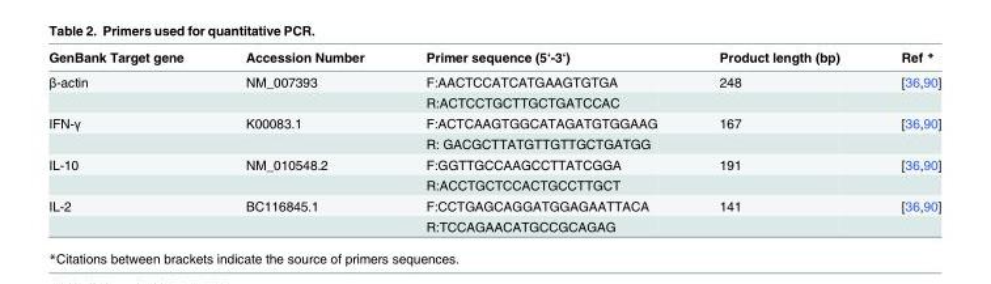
<table><thead><tr><td>GenBank Target gene</td><td>Accession Number</td><td>Primer sequence (5‘-3‘)</td><td>Product length (bp)</td><td>Ref *</td></tr></thead><tbody><tr><td rowspan="2">β-actin</td><td>NM_007393</td><td>F:AACTCCATCATGAAGTGTGA</td><td>248</td><td>[36,90]</td></tr><tr><td></td><td>R:ACTCCTGCTTGCTGATCCAC</td><td></td><td></td></tr><tr><td rowspan="2">IFN-γ</td><td>K00083.1</td><td>F:ACTCAAGTGGCATAGATGTGGAAG</td><td>167</td><td>[36,90]</td></tr><tr><td></td><td>R: GACGCTTATGTTGTTGCTGATGG</td><td></td><td></td></tr><tr><td rowspan="2">IL-10</td><td>NM_010548.2</td><td>F:GGTTGCCAAGCCTTATCGGA</td><td>191</td><td>[36,90]</td></tr><tr><td></td><td>R:ACCTGCTCCACTGCCTTGCT</td><td></td><td></td></tr><tr><td rowspan="2">IL-2</td><td>BC116845.1</td><td>F:CCTGAGCAGGATGGAGAATTACA</td><td>141</td><td>[36,90]</td></tr><tr><td></td><td>R:TCCAGAACATGCCGCAGAG</td><td></td><td></td></tr></tbody></table>